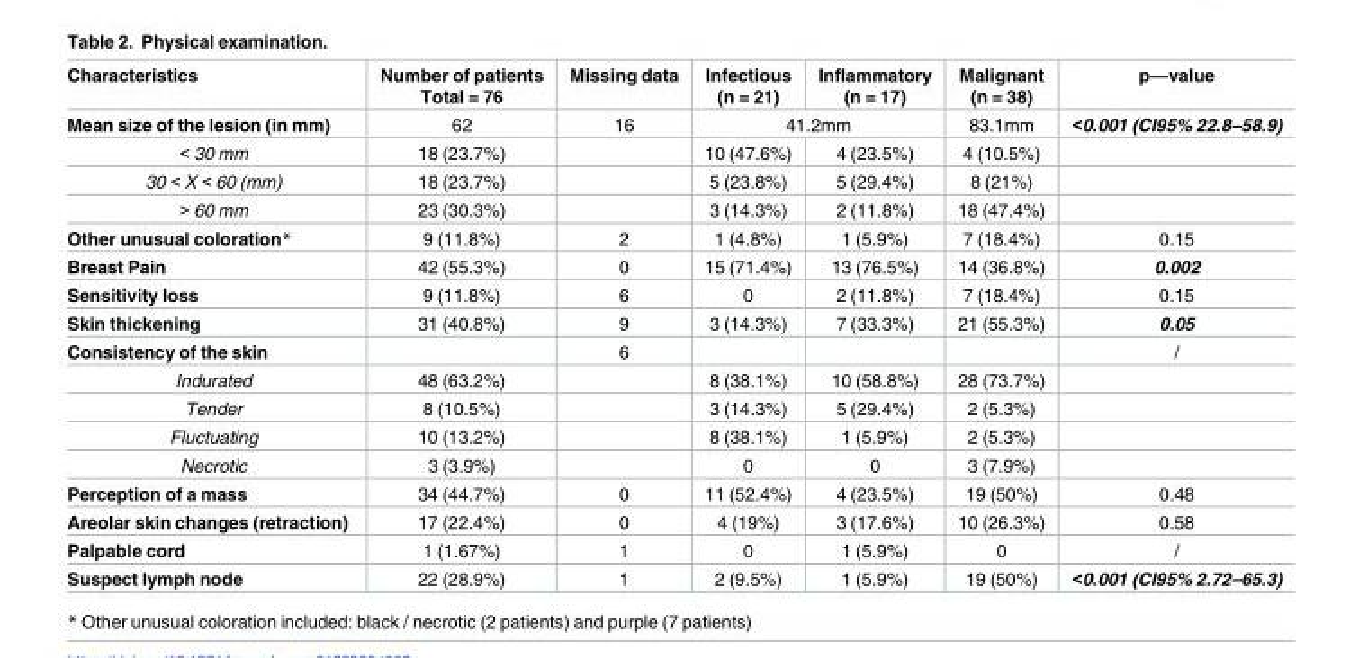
<table><thead><tr><td>Characteristics</td><td>Number of patients Total = 76</td><td>Missing data</td><td>Infectious (n = 21)</td><td>Inflammatory (n = 17)</td><td>Malignant (n = 38)</td><td>p—value</td></tr></thead><tbody><tr><td>Mean size of the lesion (in mm)</td><td>62</td><td>16</td><td colspan="2">41.2mm</td><td>83.1mm</td><td>&lt;0.001 (CI95% 22.8–58.9)</td></tr><tr><td>&lt; 30 mm</td><td>18 (23.7%)</td><td></td><td>10 (47.6%)</td><td>4 (23.5%)</td><td>4 (10.5%)</td><td></td></tr><tr><td>30 &lt; X &lt; 60 (mm)</td><td>18 (23.7%)</td><td></td><td>5 (23.8%)</td><td>5 (29.4%)</td><td>8 (21%)</td><td></td></tr><tr><td>&gt; 60 mm</td><td>23 (30.3%)</td><td></td><td>3 (14.3%)</td><td>2 (11.8%)</td><td>18 (47.4%)</td><td></td></tr><tr><td>Other unusual coloration*</td><td>9 (11.8%)</td><td>2</td><td>1 (4.8%)</td><td>1 (5.9%)</td><td>7 (18.4%)</td><td>0.15</td></tr><tr><td>Breast Pain</td><td>42 (55.3%)</td><td>0</td><td>15 (71.4%)</td><td>13 (76.5%)</td><td>14 (36.8%)</td><td>0.002</td></tr><tr><td>Sensitivity loss</td><td>9 (11.8%)</td><td>6</td><td>0</td><td>2 (11.8%)</td><td>7 (18.4%)</td><td>0.15</td></tr><tr><td>Skin thickening</td><td>31 (40.8%)</td><td>9</td><td>3 (14.3%)</td><td>7 (33.3%)</td><td>21 (55.3%)</td><td>0.05</td></tr><tr><td>Consistency of the skin</td><td></td><td>6</td><td></td><td></td><td></td><td>/</td></tr><tr><td>Indurated</td><td>48 (63.2%)</td><td></td><td>8 (38.1%)</td><td>10 (58.8%)</td><td>28 (73.7%)</td><td></td></tr><tr><td>Tender</td><td>8 (10.5%)</td><td></td><td>3 (14.3%)</td><td>5 (29.4%)</td><td>2 (5.3%)</td><td></td></tr><tr><td>Fluctuating</td><td>10 (13.2%)</td><td></td><td>8 (38.1%)</td><td>1 (5.9%)</td><td>2 (5.3%)</td><td></td></tr><tr><td>Necrotic</td><td>3 (3.9%)</td><td></td><td>0</td><td>0</td><td>3 (7.9%)</td><td></td></tr><tr><td>Perception of a mass</td><td>34 (44.7%)</td><td>0</td><td>11 (52.4%)</td><td>4 (23.5%)</td><td>19 (50%)</td><td>0.48</td></tr><tr><td>Areolar skin changes (retraction)</td><td>17 (22.4%)</td><td>0</td><td>4 (19%)</td><td>3 (17.6%)</td><td>10 (26.3%)</td><td>0.58</td></tr><tr><td>Palpable cord</td><td>1 (1.67%)</td><td>1</td><td>0</td><td>1 (5.9%)</td><td>0</td><td>/</td></tr><tr><td>Suspect lymph node</td><td>22 (28.9%)</td><td>1</td><td>2 (9.5%)</td><td>1 (5.9%)</td><td>19 (50%)</td><td>&lt;0.001 (CI95% 2.72–65.3)</td></tr></tbody></table>